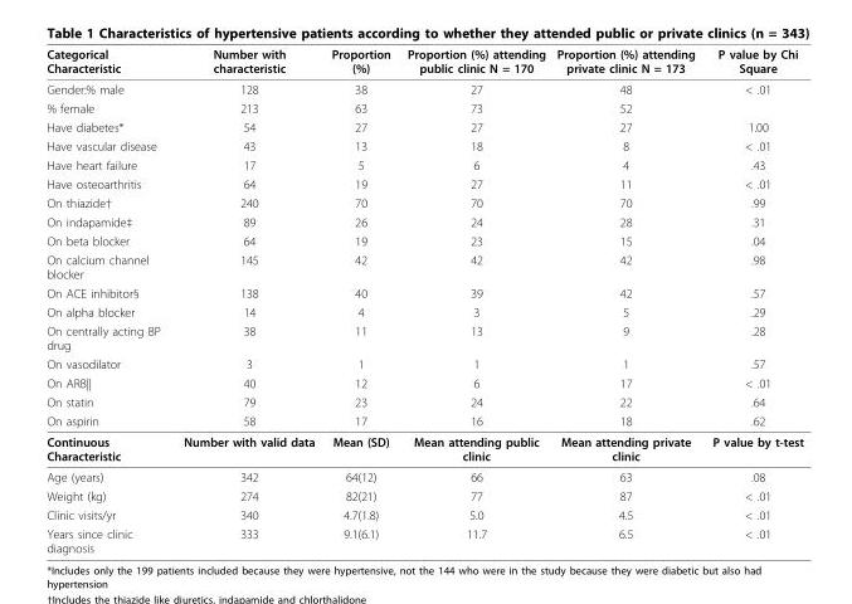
<table><thead><tr><td>Categorical Characteristic</td><td>Number with characteristic</td><td>Proportion (%)</td><td>Proportion (%) attending public clinic N = 170</td><td>Proportion (%) attending private clinic N = 173</td><td>P value by Chi Square</td></tr></thead><tbody><tr><td>Gender:% male</td><td>128</td><td>38</td><td>27</td><td>48</td><td>&lt; .01</td></tr><tr><td>% female</td><td>213</td><td>63</td><td>73</td><td>52</td><td></td></tr><tr><td>Have diabetes*</td><td>54</td><td>27</td><td>27</td><td>27</td><td>1.00</td></tr><tr><td>Have vascular disease</td><td>43</td><td>13</td><td>18</td><td>8</td><td>&lt; .01</td></tr><tr><td>Have heart failure</td><td>17</td><td>5</td><td>6</td><td>4</td><td>.43</td></tr><tr><td>Have osteoarthritis</td><td>64</td><td>19</td><td>27</td><td>11</td><td>&lt; .01</td></tr><tr><td>On thiazide†</td><td>240</td><td>70</td><td>70</td><td>70</td><td>.99</td></tr><tr><td>On indapamide‡</td><td>89</td><td>26</td><td>24</td><td>28</td><td>.31</td></tr><tr><td>On beta blocker</td><td>64</td><td>19</td><td>23</td><td>15</td><td>.04</td></tr><tr><td>On calcium channel blocker</td><td>145</td><td>42</td><td>42</td><td>42</td><td>.98</td></tr><tr><td>On ACE inhibitor§</td><td>138</td><td>40</td><td>39</td><td>42</td><td>.57</td></tr><tr><td>On alpha blocker</td><td>14</td><td>4</td><td>3</td><td>5</td><td>.29</td></tr><tr><td>On centrally acting BP drug</td><td>38</td><td>11</td><td>13</td><td>9</td><td>.28</td></tr><tr><td>On vasodilator</td><td>3</td><td>1</td><td>1</td><td>1</td><td>.57</td></tr><tr><td>On ARB||</td><td>40</td><td>12</td><td>6</td><td>17</td><td>&lt; .01</td></tr><tr><td>On statin</td><td>79</td><td>23</td><td>24</td><td>22</td><td>.64</td></tr><tr><td>On aspirin</td><td>58</td><td>17</td><td>16</td><td>18</td><td>.62</td></tr><tr><td>Continuous Characteristic</td><td>Number with valid data</td><td>Mean (SD)</td><td>Mean attending public clinic</td><td>Mean attending private clinic</td><td>P value by t-test</td></tr><tr><td>Age (years)</td><td>342</td><td>64(12)</td><td>66</td><td>63</td><td>.08</td></tr><tr><td>Weight (kg)</td><td>274</td><td>82(21)</td><td>77</td><td>87</td><td>&lt; .01</td></tr><tr><td>Clinic visits/yr</td><td>340</td><td>4.7(1.8)</td><td>5.0</td><td>4.5</td><td>&lt; .01</td></tr><tr><td>Years since clinic diagnosis</td><td>333</td><td>9.1(6.1)</td><td>11.7</td><td>6.5</td><td>&lt; .01</td></tr></tbody></table>